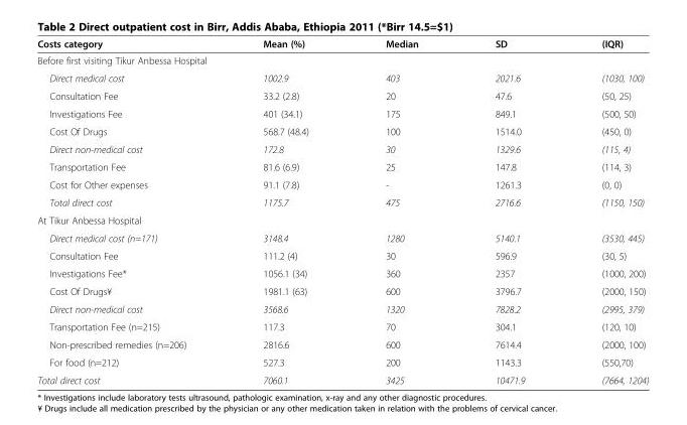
<table><thead><tr><td>Costs category</td><td>Mean (%)</td><td>Median</td><td>SD</td><td>(IQR)</td></tr></thead><tbody><tr><td colspan="5">Before first visiting Tikur Anbessa Hospital</td></tr><tr><td>Direct medical cost</td><td>1002.9</td><td>403</td><td>2021.6</td><td>(1030, 100)</td></tr><tr><td>Consultation Fee</td><td>33.2 (2.8)</td><td>20</td><td>47.6</td><td>(50, 25)</td></tr><tr><td>Investigations Fee</td><td>401 (34.1)</td><td>175</td><td>849.1</td><td>(500, 50)</td></tr><tr><td>Cost Of Drugs</td><td>568.7 (48.4)</td><td>100</td><td>1514.0</td><td>(450, 0)</td></tr><tr><td>Direct non-medical cost</td><td>172.8</td><td>30</td><td>1329.6</td><td>(115, 4)</td></tr><tr><td>Transportation Fee</td><td>81.6 (6.9)</td><td>25</td><td>147.8</td><td>(114, 3)</td></tr><tr><td>Cost for Other expenses</td><td>91.1 (7.8)</td><td>-</td><td>1261.3</td><td>(0, 0)</td></tr><tr><td>Total direct cost</td><td>1175.7</td><td>475</td><td>2716.6</td><td>(1150, 150)</td></tr><tr><td colspan="5">At Tikur Anbessa Hospital</td></tr><tr><td>Direct medical cost (n=171)</td><td>3148.4</td><td>1280</td><td>5140.1</td><td>(3530, 445)</td></tr><tr><td>Consultation Fee</td><td>111.2 (4)</td><td>30</td><td>596.9</td><td>(30, 5)</td></tr><tr><td>Investigations Fee*</td><td>1056.1 (34)</td><td>360</td><td>2357</td><td>(1000, 200)</td></tr><tr><td>Cost Of Drugs¥</td><td>1981.1 (63)</td><td>600</td><td>3796.7</td><td>(2000, 150)</td></tr><tr><td>Direct non-medical cost</td><td>3568.6</td><td>1320</td><td>7828.2</td><td>(2995, 379)</td></tr><tr><td>Transportation Fee (n=215)</td><td>117.3</td><td>70</td><td>304.1</td><td>(120, 10)</td></tr><tr><td>Non-prescribed remedies (n=206)</td><td>2816.6</td><td>600</td><td>7614.4</td><td>(2000, 100)</td></tr><tr><td>For food (n=212)</td><td>527.3</td><td>200</td><td>1143.3</td><td>(550,70)</td></tr><tr><td>Total direct cost</td><td>7060.1</td><td>3425</td><td>10471.9</td><td>(7664, 1204)</td></tr></tbody></table>